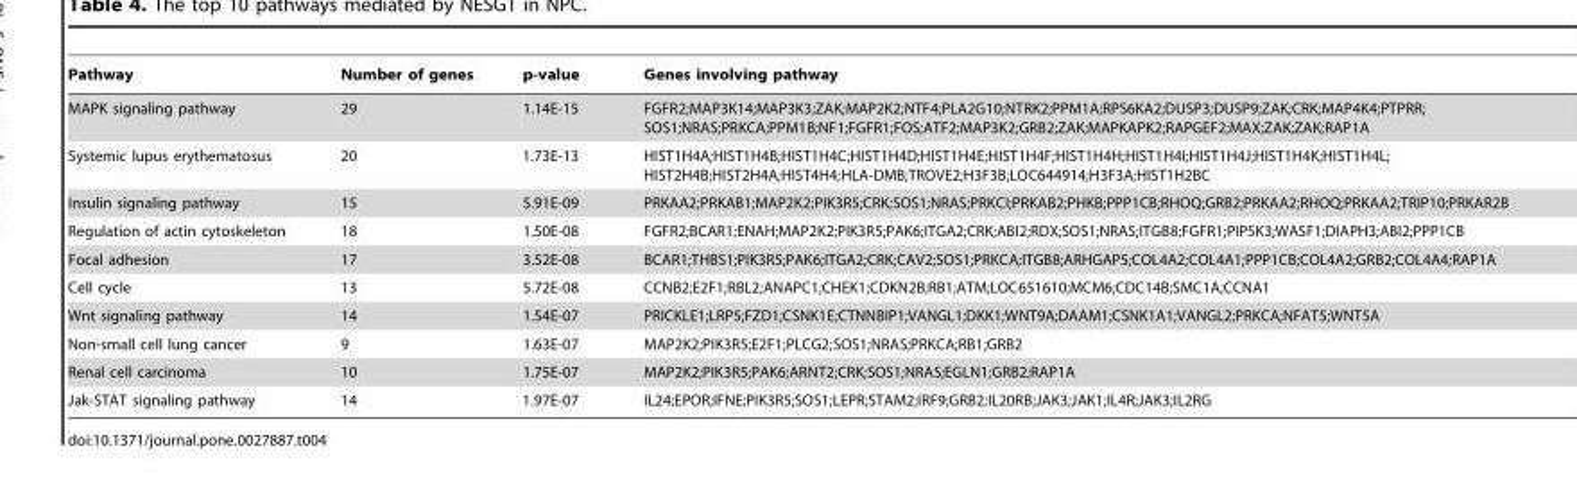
<table><thead><tr><td>Pathway</td><td>Number of genes</td><td>p-value</td><td>Genes involving pathway</td></tr></thead><tbody><tr><td>MAPK signaling pathway</td><td>29</td><td>1.14E-15</td><td>FGFR2;MAP3K14;MAP3K3;ZAK;MAP2K2;NTF4;PLA2G10;NTRK2;PPM1A;RPS6KA2;DUSP3;DUSP9;ZAK;CRK;MAP4K4;PTPRR; SOS1;NRAS;PRKCA;PPM1B;NF1;FGFR1;FOS;ATF2;MAP3K2;GRB2;ZAK;MAPKAPK2;RAPGEF2;MAX;ZAK;ZAK;RAP1A</td></tr><tr><td>Systemic lupus erythematosus</td><td>20</td><td>1.73E-13</td><td>HIST1H4A;HIST1H4B;HIST1H4C;HIST1H4D;HIST1H4E;HIST1H4F;HIST1H4H;HIST1H4I;HIST1H4J;HIST1H4K;HIST1H4L; HIST2H4B;HIST2H4A;HIST4H4;HLA-DMB;TROVE2;H3F3B;LOC644914;H3F3A;HIST1H2BC</td></tr><tr><td>Insulin signaling pathway</td><td>15</td><td>5.91E-09</td><td>PRKAA2;PRKAB1;MAP2K2;PIK3R5;CRK;SOS1;NRAS;PRKCI;PRKAB2;PHKB;PPP1CB;RHOQ;GRB2;PRKAA2;RHOQ;PRKAA2;TRIP10;PRKAR2B</td></tr><tr><td>Regulation of actin cytoskeleton</td><td>18</td><td>1.50E-08</td><td>FGFR2;BCAR1;ENAH;MAP2K2;PIK3R5;PAK6;ITGA2;CRK;ABI2;RDX;SOS1;NRAS;ITGB8;FGFR1;PIP5K3;WASF1;DIAPH3;ABI2;PPP1CB</td></tr><tr><td>Focal adhesion</td><td>17</td><td>3.52E-08</td><td>BCAR1;THBS1;PIK3R5;PAK6;ITGA2;CRK;CAV2;SOS1;PRKCA;ITGB8;ARHGAP5;COL4A2;COL4A1;PPP1CB;COL4A2;GRB2;COL4A4;RAP1A</td></tr><tr><td>Cell cycle</td><td>13</td><td>5.72E-08</td><td>CCNB2;E2F1;RBL2;ANAPC1;CHEK1;CDKN2B;RB1;ATM;LOC651610;MCM6;CDC14B;SMC1A;CCNA1</td></tr><tr><td>Wnt signaling pathway</td><td>14</td><td>1.54E-07</td><td>PRICKLE1;LRP5;FZD1;CSNK1E;CTNNBIP1;VANGL1;DKK1;WNT9A;DAAM1;CSNK1A1;VANGL2;PRKCA;NFAT5;WNT5A</td></tr><tr><td>Non-small cell lung cancer</td><td>9</td><td>1.63E-07</td><td>MAP2K2;PIK3R5;E2F1;PLCG2;SOS1;NRAS;PRKCA;RB1;GRB2</td></tr><tr><td>Renal cell carcinoma</td><td>10</td><td>1.75E-07</td><td>MAP2K2;PIK3R5;PAK6;ARNT2;CRK;SOS1;NRAS;EGLN1;GRB2;RAP1A</td></tr><tr><td>Jak-STAT signaling pathway</td><td>14</td><td>1.97E-07</td><td>IL24;EPOR;IFNE;PIK3R5;SOS1;LEPR;STAM2;IRF9;GRB2;IL20RB;JAK3;JAK1;IL4R;JAK3;IL2RG</td></tr></tbody></table>